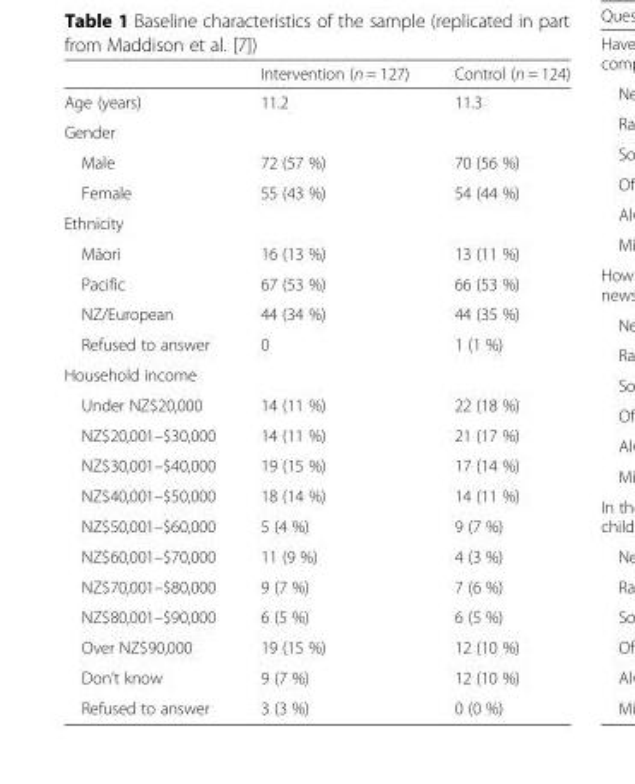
<table><thead><tr><td></td><td>Intervention (n = 127)</td><td>Control (n = 124)</td></tr></thead><tbody><tr><td>Age (years)</td><td>11.2</td><td>11.3</td></tr><tr><td colspan="3">Gender</td></tr><tr><td>Male</td><td>72 (57 %)</td><td>70 (56 %)</td></tr><tr><td>Female</td><td>55 (43 %)</td><td>54 (44 %)</td></tr><tr><td colspan="3">Ethnicity</td></tr><tr><td>Māori</td><td>16 (13 %)</td><td>13 (11 %)</td></tr><tr><td>Pacific</td><td>67 (53 %)</td><td>66 (53 %)</td></tr><tr><td>NZ/European</td><td>44 (34 %)</td><td>44 (35 %)</td></tr><tr><td>Refused to answer</td><td>0</td><td>1 (1 %)</td></tr><tr><td colspan="3">Household income</td></tr><tr><td>Under NZ$20,000</td><td>14 (11 %)</td><td>22 (18 %)</td></tr><tr><td>NZ$20,001–$30,000</td><td>14 (11 %)</td><td>21 (17 %)</td></tr><tr><td>NZ$30,001–$40,000</td><td>19 (15 %)</td><td>17 (14 %)</td></tr><tr><td>NZ$40,001–$50,000</td><td>18 (14 %)</td><td>14 (11 %)</td></tr><tr><td>NZ$50,001–$60,000</td><td>5 (4 %)</td><td>9 (7 %)</td></tr><tr><td>NZ$60,001–$70,000</td><td>11 (9 %)</td><td>4 (3 %)</td></tr><tr><td>NZ$70,001–$80,000</td><td>9 (7 %)</td><td>7 (6 %)</td></tr><tr><td>NZ$80,001–$90,000</td><td>6 (5 %)</td><td>6 (5 %)</td></tr><tr><td>Over NZ$90,000</td><td>19 (15 %)</td><td>12 (10 %)</td></tr><tr><td>Don’t know</td><td>9 (7 %)</td><td>12 (10 %)</td></tr><tr><td>Refused to answer</td><td>3 (3 %)</td><td>0 (0 %)</td></tr></tbody></table>